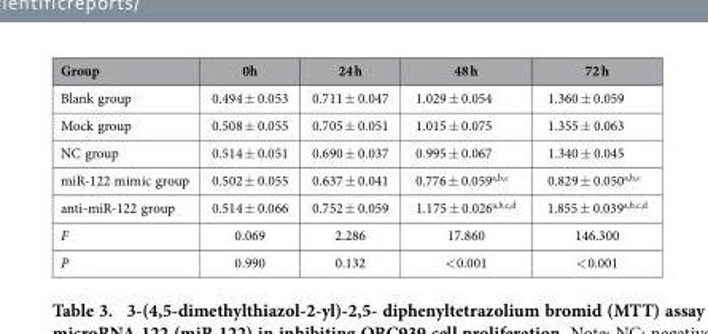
<table><thead><tr><td>Group</td><td>0h</td><td>24 h</td><td>48 h</td><td>72 h</td></tr></thead><tbody><tr><td>Blank group</td><td>0.494 ± 0.053</td><td>0.711 ± 0.047</td><td>1.029 ± 0.054</td><td>1.360 ± 0.059</td></tr><tr><td>Mock group</td><td>0.508 ± 0.055</td><td>0.705 ± 0.051</td><td>1.015 ± 0.075</td><td>1.355 ± 0.063</td></tr><tr><td>NC group</td><td>0.514 ± 0.051</td><td>0.690 ± 0.037</td><td>0.995 ± 0.067</td><td>1.340 ± 0.045</td></tr><tr><td>miR-122 mimic group</td><td>0.502 ± 0.055</td><td>0.637 ± 0.041</td><td>0.776 ± 0.059<sup>a,b,c</sup></td><td>0.829 ± 0.050<sup>a,b,c</sup></td></tr><tr><td>anti-miR-122 group</td><td>0.514 ± 0.066</td><td>0.752 ± 0.059</td><td>1.175 ± 0.026<sup>a,b,c,d</sup></td><td>1.855 ± 0.039<sup>a,b,c,d</sup></td></tr><tr><td>F</td><td>0.069</td><td>2.286</td><td>17.860</td><td>146.300</td></tr><tr><td>P</td><td>0.990</td><td>0.132</td><td>&lt; 0.001</td><td>&lt; 0.001</td></tr></tbody></table>